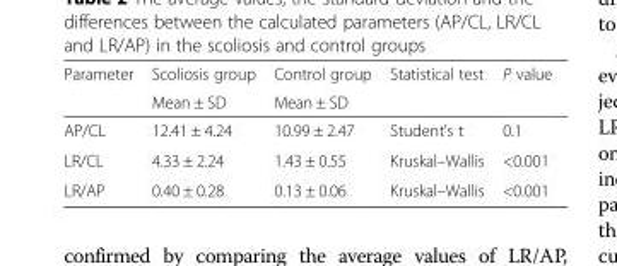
<table><thead><tr><td rowspan="2">Parameter</td><td rowspan="2">Scoliosis group Mean ± SD</td><td rowspan="2">Control group Mean ± SD</td><td rowspan="2">Statistical test</td><td rowspan="2">P value</td></tr><tr></tr></thead><tbody><tr><td>AP/CL</td><td>12.41 ± 4.24</td><td>10.99 ± 2.47</td><td>Student’s t</td><td>0.1</td></tr><tr><td>LR/CL</td><td>4.33 ± 2.24</td><td>1.43 ± 0.55</td><td>Kruskal–Wallis</td><td>&lt;0.001</td></tr><tr><td>LR/AP</td><td>0.40 ± 0.28</td><td>0.13 ± 0.06</td><td>Kruskal–Wallis</td><td>&lt;0.001</td></tr></tbody></table>